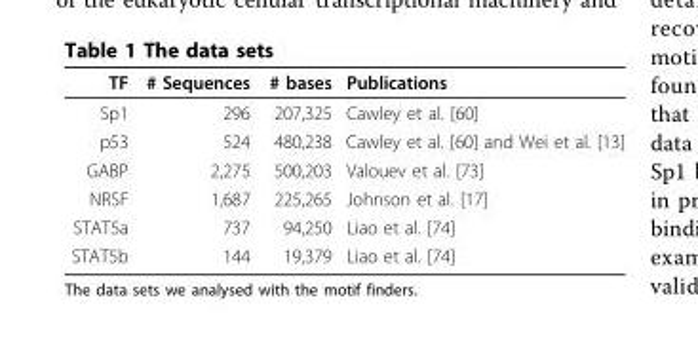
<table><thead><tr><td>TF</td><td># Sequences</td><td># bases</td><td>Publications</td></tr></thead><tbody><tr><td>Sp1</td><td>296</td><td>207,325</td><td>Cawley et al. [60]</td></tr><tr><td>p53</td><td>524</td><td>480,238</td><td>Cawley et al. [60] and Wei et al. [13]</td></tr><tr><td>GABP</td><td>2,275</td><td>500,203</td><td>Valouev et al. [73]</td></tr><tr><td>NRSF</td><td>1,687</td><td>225,265</td><td>Johnson et al. [17]</td></tr><tr><td>STAT5a</td><td>737</td><td>94,250</td><td>Liao et al. [74]</td></tr><tr><td>STAT5b</td><td>144</td><td>19,379</td><td>Liao et al. [74]</td></tr></tbody></table>